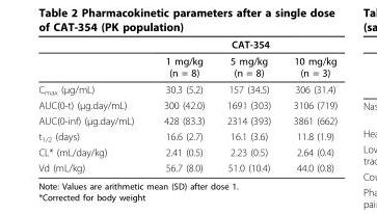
<table><thead><tr><td rowspan="2"></td><td colspan="3">CAT-354</td></tr><tr><td>1 mg/kg (n = 8)</td><td>5 mg/kg (n = 8)</td><td>10 mg/kg (n = 3)</td></tr></thead><tbody><tr><td>C<sub>max</sub> (μg/mL)</td><td>30.3 (5.2)</td><td>157 (34.5)</td><td>306 (31.4)</td></tr><tr><td>AUC(0-t) (μg.day/mL)</td><td>300 (42.0)</td><td>1691 (303)</td><td>3106 (719)</td></tr><tr><td>AUC(0-inf) (μg.day/mL)</td><td>428 (83.3)</td><td>2314 (393)</td><td>3861 (662)</td></tr><tr><td>t<sub>1/2</sub> (days)</td><td>16.6 (2.7)</td><td>16.1 (3.6)</td><td>11.8 (1.9)</td></tr><tr><td>CL* (mL/day/kg)</td><td>2.41 (0.5)</td><td>2.23 (0.5)</td><td>2.64 (0.4)</td></tr><tr><td>Vd (mL/kg)</td><td>56.7 (8.0)</td><td>51.0 (10.4)</td><td>44.0 (0.8)</td></tr></tbody></table>